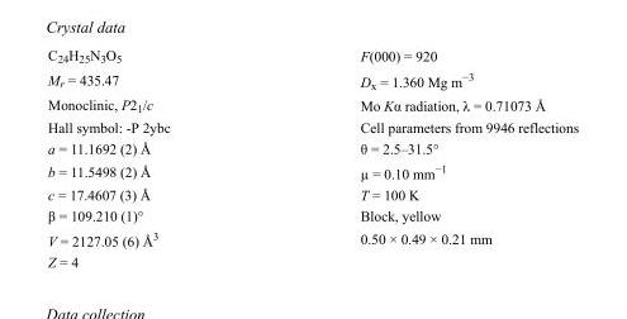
<table><tbody><tr><td>C<sub>24</sub>H<sub>25</sub>N<sub>3</sub>O<sub>5</sub></td><td>F(000) = 920</td></tr><tr><td>M<sub>r</sub> = 435.47</td><td>D<sub>x</sub> = 1.360 Mg m<sup>−3</sup></td></tr><tr><td>Monoclinic, P2<sub>1</sub>/c</td><td>Mo Kα radiation, λ = 0.71073 Å</td></tr><tr><td>Hall symbol: -P 2ybc</td><td>Cell parameters from 9946 reflections</td></tr><tr><td>a = 11.1692 (2) Å</td><td>θ = 2.5–31.5°</td></tr><tr><td>b = 11.5498 (2) Å</td><td>µ = 0.10 mm<sup>−1</sup></td></tr><tr><td>c = 17.4607 (3) Å</td><td>T = 100 K</td></tr><tr><td>β = 109.210 (1)°</td><td>Block, yellow</td></tr><tr><td>V = 2127.05 (6) Å<sup>3</sup></td><td>0.50 × 0.49 × 0.21 mm</td></tr><tr><td>Z = 4</td><td></td></tr></tbody></table>